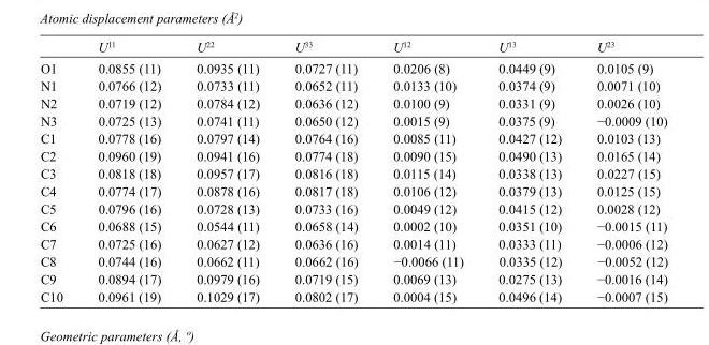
<table><thead><tr><td></td><td>U<sup>11</sup></td><td>U<sup>22</sup></td><td>U<sup>33</sup></td><td>U<sup>12</sup></td><td>U<sup>13</sup></td><td>U<sup>23</sup></td></tr></thead><tbody><tr><td>O1</td><td>0.0855 (11)</td><td>0.0935 (11)</td><td>0.0727 (11)</td><td>0.0206 (8)</td><td>0.0449 (9)</td><td>0.0105 (9)</td></tr><tr><td>N1</td><td>0.0766 (12)</td><td>0.0733 (11)</td><td>0.0652 (11)</td><td>0.0133 (10)</td><td>0.0374 (9)</td><td>0.0071 (10)</td></tr><tr><td>N2</td><td>0.0719 (12)</td><td>0.0784 (12)</td><td>0.0636 (12)</td><td>0.0100 (9)</td><td>0.0331 (9)</td><td>0.0026 (10)</td></tr><tr><td>N3</td><td>0.0725 (13)</td><td>0.0741 (11)</td><td>0.0650 (12)</td><td>0.0015 (9)</td><td>0.0375 (9)</td><td>−0.0009 (10)</td></tr><tr><td>C1</td><td>0.0778 (16)</td><td>0.0797 (14)</td><td>0.0764 (16)</td><td>0.0085 (11)</td><td>0.0427 (12)</td><td>0.0103 (13)</td></tr><tr><td>C2</td><td>0.0960 (19)</td><td>0.0941 (16)</td><td>0.0774 (18)</td><td>0.0090 (15)</td><td>0.0490 (13)</td><td>0.0165 (14)</td></tr><tr><td>C3</td><td>0.0818 (18)</td><td>0.0957 (17)</td><td>0.0816 (18)</td><td>0.0115 (14)</td><td>0.0338 (13)</td><td>0.0227 (15)</td></tr><tr><td>C4</td><td>0.0774 (17)</td><td>0.0878 (16)</td><td>0.0817 (18)</td><td>0.0106 (12)</td><td>0.0379 (13)</td><td>0.0125 (15)</td></tr><tr><td>C5</td><td>0.0796 (16)</td><td>0.0728 (13)</td><td>0.0733 (16)</td><td>0.0049 (12)</td><td>0.0415 (12)</td><td>0.0028 (12)</td></tr><tr><td>C6</td><td>0.0688 (15)</td><td>0.0544 (11)</td><td>0.0658 (14)</td><td>0.0002 (10)</td><td>0.0351 (10)</td><td>−0.0015 (11)</td></tr><tr><td>C7</td><td>0.0725 (16)</td><td>0.0627 (12)</td><td>0.0636 (16)</td><td>0.0014 (11)</td><td>0.0333 (11)</td><td>−0.0006 (12)</td></tr><tr><td>C8</td><td>0.0744 (16)</td><td>0.0662 (11)</td><td>0.0662 (16)</td><td>−0.0066 (11)</td><td>0.0335 (12)</td><td>−0.0052 (12)</td></tr><tr><td>C9</td><td>0.0894 (17)</td><td>0.0979 (16)</td><td>0.0719 (15)</td><td>0.0069 (13)</td><td>0.0275 (13)</td><td>−0.0016 (14)</td></tr><tr><td>C10</td><td>0.0961 (19)</td><td>0.1029 (17)</td><td>0.0802 (17)</td><td>0.0004 (15)</td><td>0.0496 (14)</td><td>−0.0007 (15)</td></tr></tbody></table>